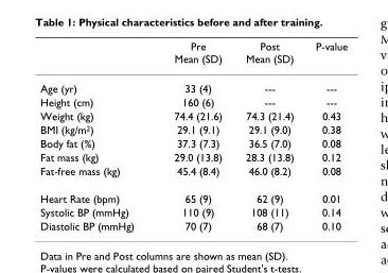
<table><thead><tr><td></td><td>Pre Mean (SD)</td><td>Post Mean (SD)</td><td>P-value</td></tr></thead><tbody><tr><td>Age (yr)</td><td>33 (4)</td><td>---</td><td>---</td></tr><tr><td>Height (cm)</td><td>160 (6)</td><td>---</td><td>---</td></tr><tr><td>Weight (kg)</td><td>74.4 (21.6)</td><td>74.3 (21.4)</td><td>0.43</td></tr><tr><td>BMI (kg/m<sup>2</sup>)</td><td>29.1 (9.1)</td><td>29.1 (9.0)</td><td>0.38</td></tr><tr><td>Body fat (%)</td><td>37.3 (7.3)</td><td>36.5 (7.0)</td><td>0.08</td></tr><tr><td>Fat mass (kg)</td><td>29.0 (13.8)</td><td>28.3 (13.8)</td><td>0.12</td></tr><tr><td>Fat-free mass (kg)</td><td>45.4 (8.4)</td><td>46.0 (8.2)</td><td>0.08</td></tr><tr><td>Heart Rate (bpm)</td><td>65 (9)</td><td>62 (9)</td><td>0.01</td></tr><tr><td>Systolic BP (mmHg)</td><td>110 (9)</td><td>108 (11)</td><td>0.14</td></tr><tr><td>Diastolic BP (mmHg)</td><td>70 (7)</td><td>68 (7)</td><td>0.10</td></tr></tbody></table>